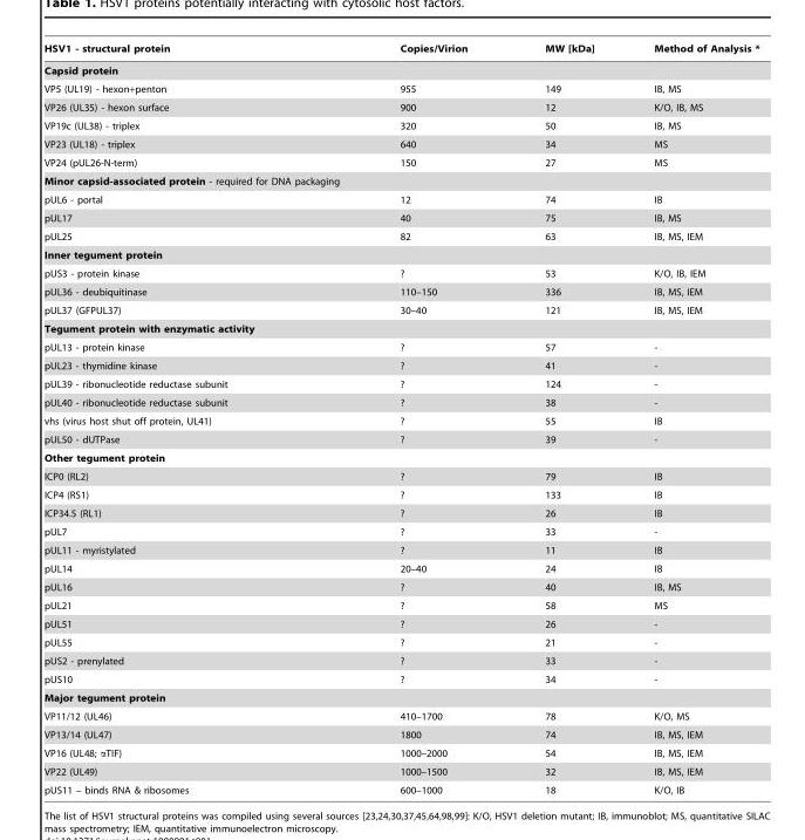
<table><thead><tr><td>HSV1 - structural protein</td><td>Copies/Virion</td><td>MW [kDa]</td><td>Method of Analysis *</td></tr></thead><tbody><tr><td colspan="4">Capsid protein</td></tr><tr><td>VP5 (UL19) - hexon+penton</td><td>955</td><td>149</td><td>IB, MS</td></tr><tr><td>VP26 (UL35) - hexon surface</td><td>900</td><td>12</td><td>K/O, IB, MS</td></tr><tr><td>VP19c (UL38) - triplex</td><td>320</td><td>50</td><td>IB, MS</td></tr><tr><td>VP23 (UL18) - triplex</td><td>640</td><td>34</td><td>MS</td></tr><tr><td>VP24 (pUL26-N-term)</td><td>150</td><td>27</td><td>MS</td></tr><tr><td colspan="4">Minor capsid-associated protein - required for DNA packaging</td></tr><tr><td>pUL6 - portal</td><td>12</td><td>74</td><td>IB</td></tr><tr><td>pUL17</td><td>40</td><td>75</td><td>IB, MS</td></tr><tr><td>pUL25</td><td>82</td><td>63</td><td>IB, MS, IEM</td></tr><tr><td colspan="4">Inner tegument protein</td></tr><tr><td>pUS3 - protein kinase</td><td>?</td><td>53</td><td>K/O, IB, IEM</td></tr><tr><td>pUL36 - deubiquitinase</td><td>110–150</td><td>336</td><td>IB, MS, IEM</td></tr><tr><td>pUL37 (GFPUL37)</td><td>30–40</td><td>121</td><td>IB, MS, IEM</td></tr><tr><td colspan="4">Tegument protein with enzymatic activity</td></tr><tr><td>pUL13 - protein kinase</td><td>?</td><td>57</td><td>-</td></tr><tr><td>pUL23 - thymidine kinase</td><td>?</td><td>41</td><td>-</td></tr><tr><td>pUL39 - ribonucleotide reductase subunit</td><td>?</td><td>124</td><td>-</td></tr><tr><td>pUL40 - ribonucleotide reductase subunit</td><td>?</td><td>38</td><td>-</td></tr><tr><td>vhs (virus host shut off protein, UL41)</td><td>?</td><td>55</td><td>IB</td></tr><tr><td>pUL50 - dUTPase</td><td>?</td><td>39</td><td>-</td></tr><tr><td colspan="4">Other tegument protein</td></tr><tr><td>ICP0 (RL2)</td><td>?</td><td>79</td><td>IB</td></tr><tr><td>ICP4 (RS1)</td><td>?</td><td>133</td><td>IB</td></tr><tr><td>ICP34.5 (RL1)</td><td>?</td><td>26</td><td>IB</td></tr><tr><td>pUL7</td><td>?</td><td>33</td><td>-</td></tr><tr><td>pUL11 - myristylated</td><td>?</td><td>11</td><td>IB</td></tr><tr><td>pUL14</td><td>20–40</td><td>24</td><td>IB</td></tr><tr><td>pUL16</td><td>?</td><td>40</td><td>IB, MS</td></tr><tr><td>pUL21</td><td>?</td><td>58</td><td>MS</td></tr><tr><td>pUL51</td><td>?</td><td>26</td><td>-</td></tr><tr><td>pUL55</td><td>?</td><td>21</td><td>-</td></tr><tr><td>pUS2 - prenylated</td><td>?</td><td>33</td><td>-</td></tr><tr><td>pUS10</td><td>?</td><td>34</td><td>-</td></tr><tr><td colspan="4">Major tegument protein</td></tr><tr><td>VP11/12 (UL46)</td><td>410–1700</td><td>78</td><td>K/O, MS</td></tr><tr><td>VP13/14 (UL47)</td><td>1800</td><td>74</td><td>IB, MS, IEM</td></tr><tr><td>VP16 (UL48; αTIF)</td><td>1000–2000</td><td>54</td><td>IB, MS, IEM</td></tr><tr><td>VP22 (UL49)</td><td>1000–1500</td><td>32</td><td>IB, MS, IEM</td></tr><tr><td>pUS11 – binds RNA &amp; ribosomes</td><td>600–1000</td><td>18</td><td>K/O, IB</td></tr></tbody></table>